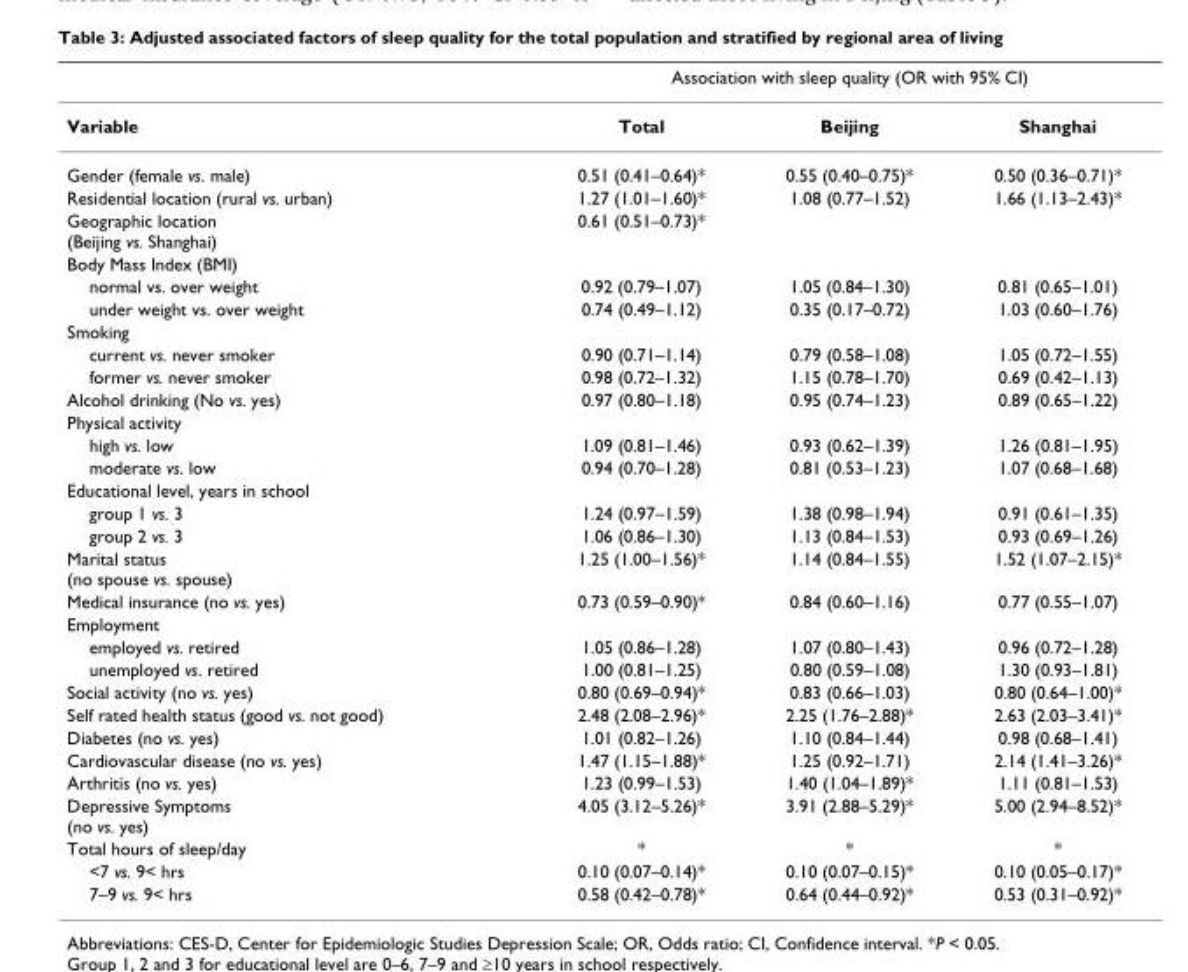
<table><thead><tr><td rowspan="2">Variable</td><td colspan="3">Association with sleep quality (OR with 95% CI)</td></tr><tr><td>Total</td><td>Beijing</td><td>Shanghai</td></tr></thead><tbody><tr><td>Gender (female vs. male)</td><td>0.51 (0.41–0.64)*</td><td>0.55 (0.40–0.75)*</td><td>0.50 (0.36–0.71)*</td></tr><tr><td>Residential location (rural vs. urban)</td><td>1.27 (1.01–1.60)*</td><td>1.08 (0.77–1.52)</td><td>1.66 (1.13–2.43)*</td></tr><tr><td>Geographic location (Beijing vs. Shanghai)</td><td>0.61 (0.51–0.73)*</td><td></td><td></td></tr><tr><td colspan="4">Body Mass Index (BMI)</td></tr><tr><td>normal vs. over weight</td><td>0.92 (0.79–1.07)</td><td>1.05 (0.84–1.30)</td><td>0.81 (0.65–1.01)</td></tr><tr><td>under weight vs. over weight</td><td>0.74 (0.49–1.12)</td><td>0.35 (0.17–0.72)</td><td>1.03 (0.60–1.76)</td></tr><tr><td colspan="4">Smoking</td></tr><tr><td>current vs. never smoker</td><td>0.90 (0.71–1.14)</td><td>0.79 (0.58–1.08)</td><td>1.05 (0.72–1.55)</td></tr><tr><td>former vs. never smoker</td><td>0.98 (0.72–1.32)</td><td>1.15 (0.78–1.70)</td><td>0.69 (0.42–1.13)</td></tr><tr><td>Alcohol drinking (No vs. yes)</td><td>0.97 (0.80–1.18)</td><td>0.95 (0.74–1.23)</td><td>0.89 (0.65–1.22)</td></tr><tr><td colspan="4">Physical activity</td></tr><tr><td>high vs. low</td><td>1.09 (0.81–1.46)</td><td>0.93 (0.62–1.39)</td><td>1.26 (0.81–1.95)</td></tr><tr><td>moderate vs. low</td><td>0.94 (0.70–1.28)</td><td>0.81 (0.53–1.23)</td><td>1.07 (0.68–1.68)</td></tr><tr><td colspan="4">Educational level, years in school</td></tr><tr><td>group 1 vs. 3</td><td>1.24 (0.97–1.59)</td><td>1.38 (0.98–1.94)</td><td>0.91 (0.61–1.35)</td></tr><tr><td>group 2 vs. 3</td><td>1.06 (0.86–1.30)</td><td>1.13 (0.84–1.53)</td><td>0.93 (0.69–1.26)</td></tr><tr><td>Marital status (no spouse vs. spouse)</td><td>1.25 (1.00–1.56)*</td><td>1.14 (0.84–1.55)</td><td>1.52 (1.07–2.15)*</td></tr><tr><td>Medical insurance (no vs. yes)</td><td>0.73 (0.59–0.90)*</td><td>0.84 (0.60–1.16)</td><td>0.77 (0.55–1.07)</td></tr><tr><td colspan="4">Employment</td></tr><tr><td>employed vs. retired</td><td>1.05 (0.86–1.28)</td><td>1.07 (0.80–1.43)</td><td>0.96 (0.72–1.28)</td></tr><tr><td>unemployed vs. retired</td><td>1.00 (0.81–1.25)</td><td>0.80 (0.59–1.08)</td><td>1.30 (0.93–1.81)</td></tr><tr><td>Social activity (no vs. yes)</td><td>0.80 (0.69–0.94)*</td><td>0.83 (0.66–1.03)</td><td>0.80 (0.64–1.00)*</td></tr><tr><td>Self rated health status (good vs. not good)</td><td>2.48 (2.08–2.96)*</td><td>2.25 (1.76–2.88)*</td><td>2.63 (2.03–3.41)*</td></tr><tr><td>Diabetes (no vs. yes)</td><td>1.01 (0.82–1.26)</td><td>1.10 (0.84–1.44)</td><td>0.98 (0.68–1.41)</td></tr><tr><td>Cardiovascular disease (no vs. yes)</td><td>1.47 (1.15–1.88)*</td><td>1.25 (0.92–1.71)</td><td>2.14 (1.41–3.26)*</td></tr><tr><td>Arthritis (no vs. yes)</td><td>1.23 (0.99–1.53)</td><td>1.40 (1.04–1.89)*</td><td>1.11 (0.81–1.53)</td></tr><tr><td>Depressive Symptoms (no vs. yes)</td><td>4.05 (3.12–5.26)*</td><td>3.91 (2.88–5.29)*</td><td>5.00 (2.94–8.52)*</td></tr><tr><td>Total hours of sleep/day</td><td>*</td><td>*</td><td>*</td></tr><tr><td>&lt;7 vs. 9&lt; hrs</td><td>0.10 (0.07–0.14)*</td><td>0.10 (0.07–0.15)*</td><td>0.10 (0.05–0.17)*</td></tr><tr><td>7–9 vs. 9&lt; hrs</td><td>0.58 (0.42–0.78)*</td><td>0.64 (0.44–0.92)*</td><td>0.53 (0.31–0.92)*</td></tr></tbody></table>